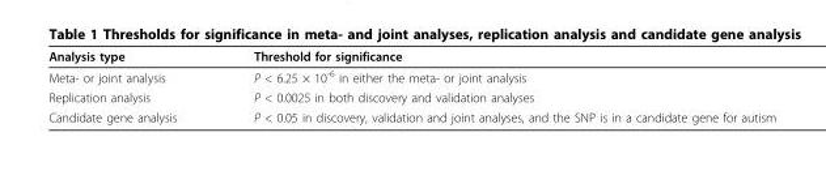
<table><thead><tr><td>Analysis type</td><td>Threshold for significance</td></tr></thead><tbody><tr><td>Meta- or joint analysis</td><td>P &lt; 6.25 × 10<sup>-6</sup> in either the meta- or joint analysis</td></tr><tr><td>Replication analysis</td><td>P &lt; 0.0025 in both discovery and validation analyses</td></tr><tr><td>Candidate gene analysis</td><td>P &lt; 0.05 in discovery, validation and joint analyses, and the SNP is in a candidate gene for autism</td></tr></tbody></table>